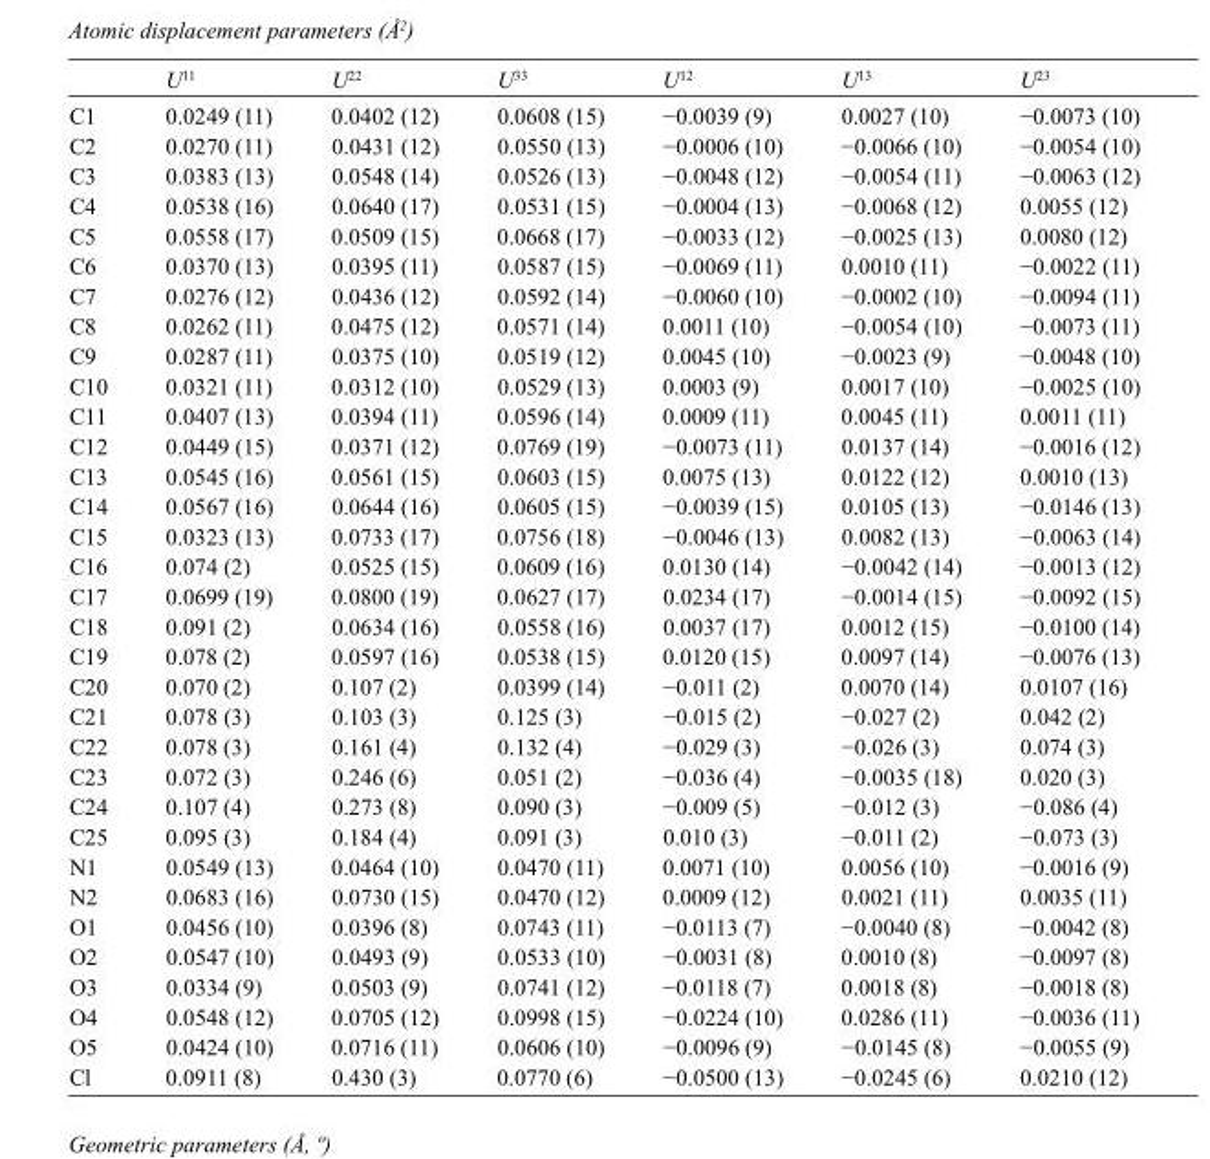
<table><thead><tr><td></td><td>U<sup>11</sup></td><td>U<sup>22</sup></td><td>U<sup>33</sup></td><td>U<sup>12</sup></td><td>U<sup>13</sup></td><td>U<sup>23</sup></td></tr></thead><tbody><tr><td>C1</td><td>0.0249 (11)</td><td>0.0402 (12)</td><td>0.0608 (15)</td><td>−0.0039 (9)</td><td>0.0027 (10)</td><td>−0.0073 (10)</td></tr><tr><td>C2</td><td>0.0270 (11)</td><td>0.0431 (12)</td><td>0.0550 (13)</td><td>−0.0006 (10)</td><td>−0.0066 (10)</td><td>−0.0054 (10)</td></tr><tr><td>C3</td><td>0.0383 (13)</td><td>0.0548 (14)</td><td>0.0526 (13)</td><td>−0.0048 (12)</td><td>−0.0054 (11)</td><td>−0.0063 (12)</td></tr><tr><td>C4</td><td>0.0538 (16)</td><td>0.0640 (17)</td><td>0.0531 (15)</td><td>−0.0004 (13)</td><td>−0.0068 (12)</td><td>0.0055 (12)</td></tr><tr><td>C5</td><td>0.0558 (17)</td><td>0.0509 (15)</td><td>0.0668 (17)</td><td>−0.0033 (12)</td><td>−0.0025 (13)</td><td>0.0080 (12)</td></tr><tr><td>C6</td><td>0.0370 (13)</td><td>0.0395 (11)</td><td>0.0587 (15)</td><td>−0.0069 (11)</td><td>0.0010 (11)</td><td>−0.0022 (11)</td></tr><tr><td>C7</td><td>0.0276 (12)</td><td>0.0436 (12)</td><td>0.0592 (14)</td><td>−0.0060 (10)</td><td>−0.0002 (10)</td><td>−0.0094 (11)</td></tr><tr><td>C8</td><td>0.0262 (11)</td><td>0.0475 (12)</td><td>0.0571 (14)</td><td>0.0011 (10)</td><td>−0.0054 (10)</td><td>−0.0073 (11)</td></tr><tr><td>C9</td><td>0.0287 (11)</td><td>0.0375 (10)</td><td>0.0519 (12)</td><td>0.0045 (10)</td><td>−0.0023 (9)</td><td>−0.0048 (10)</td></tr><tr><td>C10</td><td>0.0321 (11)</td><td>0.0312 (10)</td><td>0.0529 (13)</td><td>0.0003 (9)</td><td>0.0017 (10)</td><td>−0.0025 (10)</td></tr><tr><td>C11</td><td>0.0407 (13)</td><td>0.0394 (11)</td><td>0.0596 (14)</td><td>0.0009 (11)</td><td>0.0045 (11)</td><td>0.0011 (11)</td></tr><tr><td>C12</td><td>0.0449 (15)</td><td>0.0371 (12)</td><td>0.0769 (19)</td><td>−0.0073 (11)</td><td>0.0137 (14)</td><td>−0.0016 (12)</td></tr><tr><td>C13</td><td>0.0545 (16)</td><td>0.0561 (15)</td><td>0.0603 (15)</td><td>0.0075 (13)</td><td>0.0122 (12)</td><td>0.0010 (13)</td></tr><tr><td>C14</td><td>0.0567 (16)</td><td>0.0644 (16)</td><td>0.0605 (15)</td><td>−0.0039 (15)</td><td>0.0105 (13)</td><td>−0.0146 (13)</td></tr><tr><td>C15</td><td>0.0323 (13)</td><td>0.0733 (17)</td><td>0.0756 (18)</td><td>−0.0046 (13)</td><td>0.0082 (13)</td><td>−0.0063 (14)</td></tr><tr><td>C16</td><td>0.074 (2)</td><td>0.0525 (15)</td><td>0.0609 (16)</td><td>0.0130 (14)</td><td>−0.0042 (14)</td><td>−0.0013 (12)</td></tr><tr><td>C17</td><td>0.0699 (19)</td><td>0.0800 (19)</td><td>0.0627 (17)</td><td>0.0234 (17)</td><td>−0.0014 (15)</td><td>−0.0092 (15)</td></tr><tr><td>C18</td><td>0.091 (2)</td><td>0.0634 (16)</td><td>0.0558 (16)</td><td>0.0037 (17)</td><td>0.0012 (15)</td><td>−0.0100 (14)</td></tr><tr><td>C19</td><td>0.078 (2)</td><td>0.0597 (16)</td><td>0.0538 (15)</td><td>0.0120 (15)</td><td>0.0097 (14)</td><td>−0.0076 (13)</td></tr><tr><td>C20</td><td>0.070 (2)</td><td>0.107 (2)</td><td>0.0399 (14)</td><td>−0.011 (2)</td><td>0.0070 (14)</td><td>0.0107 (16)</td></tr><tr><td>C21</td><td>0.078 (3)</td><td>0.103 (3)</td><td>0.125 (3)</td><td>−0.015 (2)</td><td>−0.027 (2)</td><td>0.042 (2)</td></tr><tr><td>C22</td><td>0.078 (3)</td><td>0.161 (4)</td><td>0.132 (4)</td><td>−0.029 (3)</td><td>−0.026 (3)</td><td>0.074 (3)</td></tr><tr><td>C23</td><td>0.072 (3)</td><td>0.246 (6)</td><td>0.051 (2)</td><td>−0.036 (4)</td><td>−0.0035 (18)</td><td>0.020 (3)</td></tr><tr><td>C24</td><td>0.107 (4)</td><td>0.273 (8)</td><td>0.090 (3)</td><td>−0.009 (5)</td><td>−0.012 (3)</td><td>−0.086 (4)</td></tr><tr><td>C25</td><td>0.095 (3)</td><td>0.184 (4)</td><td>0.091 (3)</td><td>0.010 (3)</td><td>−0.011 (2)</td><td>−0.073 (3)</td></tr><tr><td>N1</td><td>0.0549 (13)</td><td>0.0464 (10)</td><td>0.0470 (11)</td><td>0.0071 (10)</td><td>0.0056 (10)</td><td>−0.0016 (9)</td></tr><tr><td>N2</td><td>0.0683 (16)</td><td>0.0730 (15)</td><td>0.0470 (12)</td><td>0.0009 (12)</td><td>0.0021 (11)</td><td>0.0035 (11)</td></tr><tr><td>O1</td><td>0.0456 (10)</td><td>0.0396 (8)</td><td>0.0743 (11)</td><td>−0.0113 (7)</td><td>−0.0040 (8)</td><td>−0.0042 (8)</td></tr><tr><td>O2</td><td>0.0547 (10)</td><td>0.0493 (9)</td><td>0.0533 (10)</td><td>−0.0031 (8)</td><td>0.0010 (8)</td><td>−0.0097 (8)</td></tr><tr><td>O3</td><td>0.0334 (9)</td><td>0.0503 (9)</td><td>0.0741 (12)</td><td>−0.0118 (7)</td><td>0.0018 (8)</td><td>−0.0018 (8)</td></tr><tr><td>O4</td><td>0.0548 (12)</td><td>0.0705 (12)</td><td>0.0998 (15)</td><td>−0.0224 (10)</td><td>0.0286 (11)</td><td>−0.0036 (11)</td></tr><tr><td>O5</td><td>0.0424 (10)</td><td>0.0716 (11)</td><td>0.0606 (10)</td><td>−0.0096 (9)</td><td>−0.0145 (8)</td><td>−0.0055 (9)</td></tr><tr><td>Cl</td><td>0.0911 (8)</td><td>0.430 (3)</td><td>0.0770 (6)</td><td>−0.0500 (13)</td><td>−0.0245 (6)</td><td>0.0210 (12)</td></tr></tbody></table>